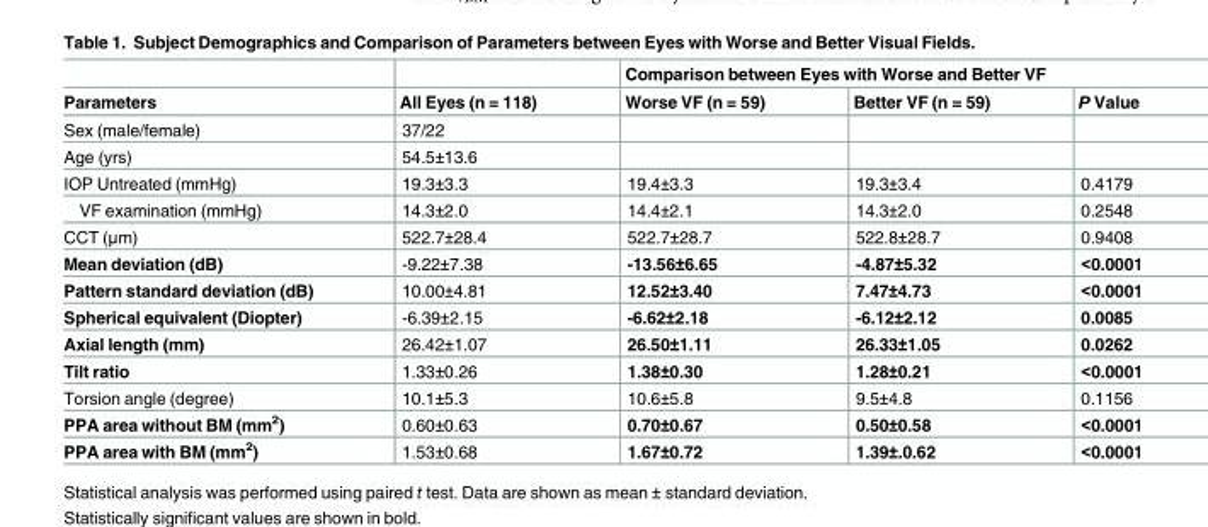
<table><thead><tr><td rowspan="2">Parameters</td><td rowspan="2">All Eyes (n = 118)</td><td colspan="3">Comparison between Eyes with Worse and Better VF</td></tr><tr><td>Worse VF (n = 59)</td><td>Better VF (n = 59)</td><td>P Value</td></tr></thead><tbody><tr><td>Sex (male/female)</td><td>37/22</td><td></td><td></td><td></td></tr><tr><td>Age (yrs)</td><td>54.5±13.6</td><td></td><td></td><td></td></tr><tr><td>IOP Untreated (mmHg)</td><td>19.3±3.3</td><td>19.4±3.3</td><td>19.3±3.4</td><td>0.4179</td></tr><tr><td>VF examination (mmHg)</td><td>14.3±2.0</td><td>14.4±2.1</td><td>14.3±2.0</td><td>0.2548</td></tr><tr><td>CCT (μm)</td><td>522.7±28.4</td><td>522.7±28.7</td><td>522.8±28.7</td><td>0.9408</td></tr><tr><td>Mean deviation (dB)</td><td>-9.22±7.38</td><td>-13.56±6.65</td><td>-4.87±5.32</td><td>&lt;0.0001</td></tr><tr><td>Pattern standard deviation (dB)</td><td>10.00±4.81</td><td>12.52±3.40</td><td>7.47±4.73</td><td>&lt;0.0001</td></tr><tr><td>Spherical equivalent (Diopter)</td><td>-6.39±2.15</td><td>-6.62±2.18</td><td>-6.12±2.12</td><td>0.0085</td></tr><tr><td>Axial length (mm)</td><td>26.42±1.07</td><td>26.50±1.11</td><td>26.33±1.05</td><td>0.0262</td></tr><tr><td>Tilt ratio</td><td>1.33±0.26</td><td>1.38±0.30</td><td>1.28±0.21</td><td>&lt;0.0001</td></tr><tr><td>Torsion angle (degree)</td><td>10.1±5.3</td><td>10.6±5.8</td><td>9.5±4.8</td><td>0.1156</td></tr><tr><td>PPA area without BM (mm<sup>2</sup>)</td><td>0.60±0.63</td><td>0.70±0.67</td><td>0.50±0.58</td><td>&lt;0.0001</td></tr><tr><td>PPA area with BM (mm<sup>2</sup>)</td><td>1.53±0.68</td><td>1.67±0.72</td><td>1.39±.0.62</td><td>&lt;0.0001</td></tr></tbody></table>